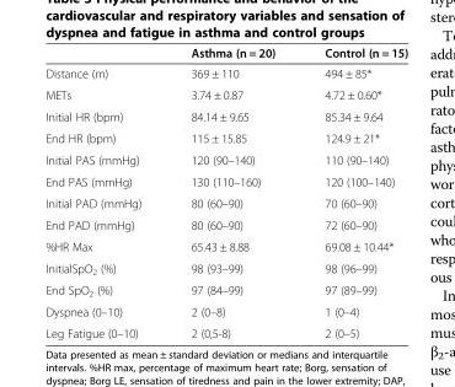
<table><thead><tr><td></td><td>Asthma (n = 20)</td><td>Control (n = 15)</td></tr></thead><tbody><tr><td>Distance (m)</td><td>369 ± 110</td><td>494 ± 85*</td></tr><tr><td>METs</td><td>3.74 ± 0.87</td><td>4.72 ± 0.60*</td></tr><tr><td>Initial HR (bpm)</td><td>84.14 ± 9.65</td><td>85.34 ± 9.64</td></tr><tr><td>End HR (bpm)</td><td>115 ± 15.85</td><td>124.9 ± 21*</td></tr><tr><td>Initial PAS (mmHg)</td><td>120 (90–140)</td><td>110 (90–140)</td></tr><tr><td>End PAS (mmHg)</td><td>130 (110–160)</td><td>120 (100–140)</td></tr><tr><td>Initial PAD (mmHg)</td><td>80 (60–90)</td><td>70 (60–90)</td></tr><tr><td>End PAD (mmHg)</td><td>80 (60–90)</td><td>72 (60–90)</td></tr><tr><td>%HR Max</td><td>65.43 ± 8.88</td><td>69.08 ± 10.44*</td></tr><tr><td>InitialSpO<sub>2</sub> (%)</td><td>98 (93–99)</td><td>98 (96–99)</td></tr><tr><td>End SpO<sub>2</sub> (%)</td><td>97 (84–99)</td><td>97 (89–99)</td></tr><tr><td>Dyspnea (0–10)</td><td>2 (0–8)</td><td>1 (0–4)</td></tr><tr><td>Leg Fatigue (0–10)</td><td>2 (0,5-8)</td><td>2 (0–5)</td></tr></tbody></table>